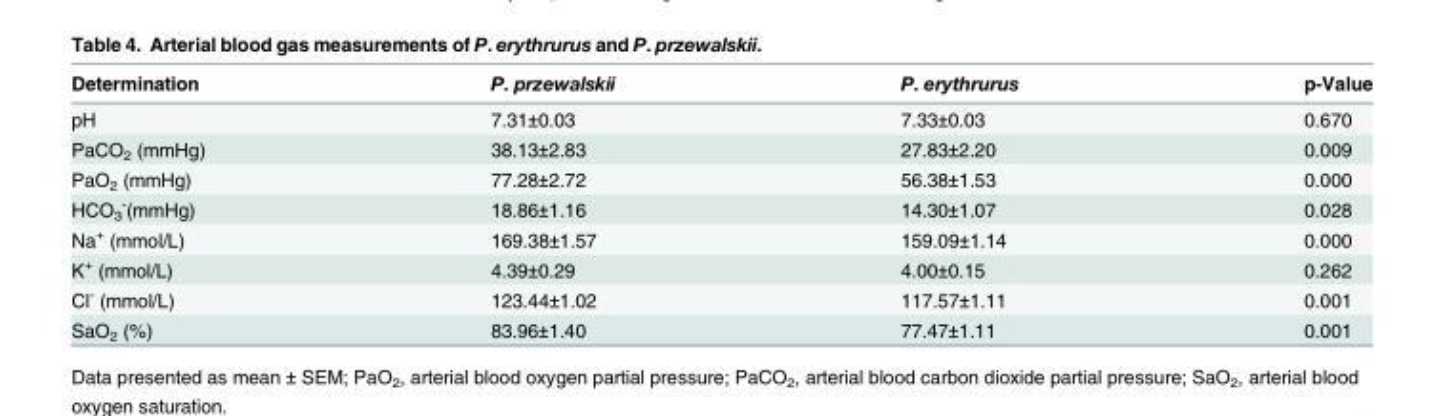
<table><thead><tr><td>Determination</td><td>P. przewalskii</td><td>P. erythrurus</td><td>p-Value</td></tr></thead><tbody><tr><td>pH</td><td>7.31±0.03</td><td>7.33±0.03</td><td>0.670</td></tr><tr><td>PaCO<sub>2</sub> (mmHg)</td><td>38.13±2.83</td><td>27.83±2.20</td><td>0.009</td></tr><tr><td>PaO<sub>2</sub> (mmHg)</td><td>77.28±2.72</td><td>56.38±1.53</td><td>0.000</td></tr><tr><td>HCO<sub>3</sub> <sup>-</sup>(mmHg)</td><td>18.86±1.16</td><td>14.30±1.07</td><td>0.028</td></tr><tr><td>Na<sup>+</sup> (mmol/L)</td><td>169.38±1.57</td><td>159.09±1.14</td><td>0.000</td></tr><tr><td>K<sup>+</sup> (mmol/L)</td><td>4.39±0.29</td><td>4.00±0.15</td><td>0.262</td></tr><tr><td>Cl<sup>-</sup> (mmol/L)</td><td>123.44±1.02</td><td>117.57±1.11</td><td>0.001</td></tr><tr><td>SaO<sub>2</sub> (%)</td><td>83.96±1.40</td><td>77.47±1.11</td><td>0.001</td></tr></tbody></table>